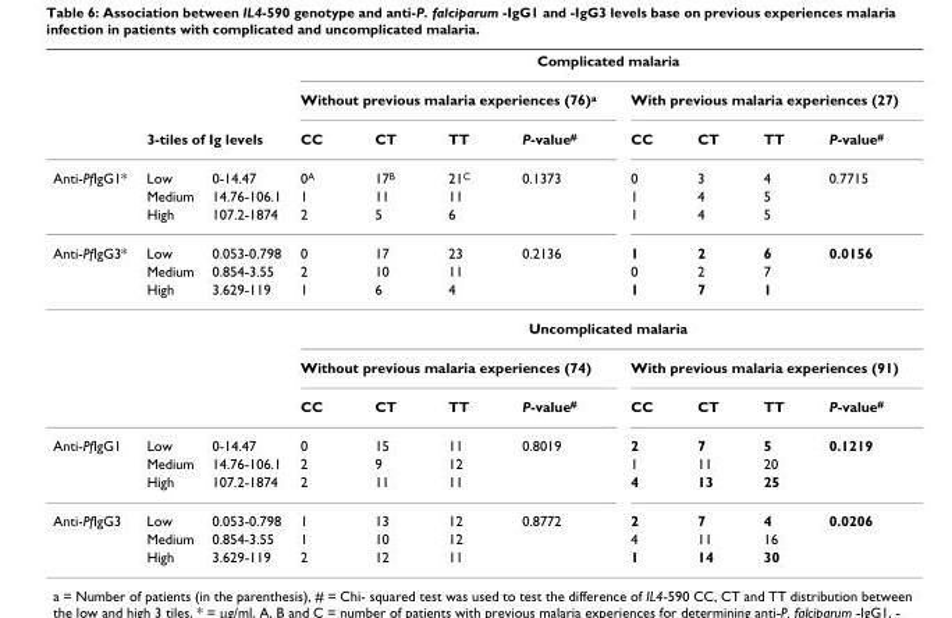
<table><thead><tr><td rowspan="9">Anti-PfIgG1* Anti-PfIgG3*</td><td rowspan="2"></td><td rowspan="2"></td><td colspan="8">Complicated malaria</td></tr><tr><td colspan="4">Without previous malaria experiences (76)<sup>a</sup></td><td colspan="4">With previous malaria experiences (27)</td></tr><tr><td colspan="2">3-tiles of Ig levels</td><td rowspan="7">CC 0A 1 2 0 2 1</td><td rowspan="7">CT 17B 11 5 17 10 6</td><td rowspan="7">TT 21C 11 6 23 11 4</td><td rowspan="7">P-value# 0.1373 0.2136</td><td rowspan="7">CC 0 1 1 1 0 1</td><td rowspan="7">CT 3 4 4 2 2 7</td><td rowspan="7">TT 4 5 5 6 7 1</td><td rowspan="7">P-value# 0.7715 0.0156</td></tr><tr><td rowspan="6">Low Medium High Low Medium High</td><td rowspan="6">0-14.47 14.76-106.1 107.2-1874 0.053-0.798 0.854-3.55 3.629-119</td></tr><tr></tr><tr></tr><tr></tr><tr></tr><tr></tr></thead><tbody><tr><td></td><td></td><td></td><td colspan="8">Uncomplicated malaria</td></tr><tr><td></td><td></td><td></td><td colspan="4">Without previous malaria experiences (74)</td><td colspan="4">With previous malaria experiences (91)</td></tr><tr><td></td><td></td><td></td><td>CC</td><td>CT</td><td>TT</td><td>P-value#</td><td>CC</td><td>CT</td><td>TT</td><td>P-value#</td></tr><tr><td rowspan="3">Anti-PfIgG1</td><td>Low</td><td>0-14.47</td><td>0</td><td>15</td><td>11</td><td>0.8019</td><td>2</td><td>7</td><td>5</td><td>0.1219</td></tr><tr><td>Medium</td><td>14.76-106.1</td><td>2</td><td>9</td><td>12</td><td></td><td>1</td><td>11</td><td>20</td><td></td></tr><tr><td>High</td><td>107.2-1874</td><td>2</td><td>11</td><td>11</td><td></td><td>4</td><td>13</td><td>25</td><td></td></tr><tr><td rowspan="3">Anti-PfIgG3</td><td>Low</td><td>0.053-0.798</td><td>1</td><td>13</td><td>12</td><td>0.8772</td><td>2</td><td>7</td><td>4</td><td>0.0206</td></tr><tr><td>Medium</td><td>0.854-3.55</td><td>1</td><td>10</td><td>12</td><td></td><td>4</td><td>11</td><td>16</td><td></td></tr><tr><td>High</td><td>3.629-119</td><td>2</td><td>12</td><td>11</td><td></td><td>1</td><td>14</td><td>30</td><td></td></tr></tbody></table>